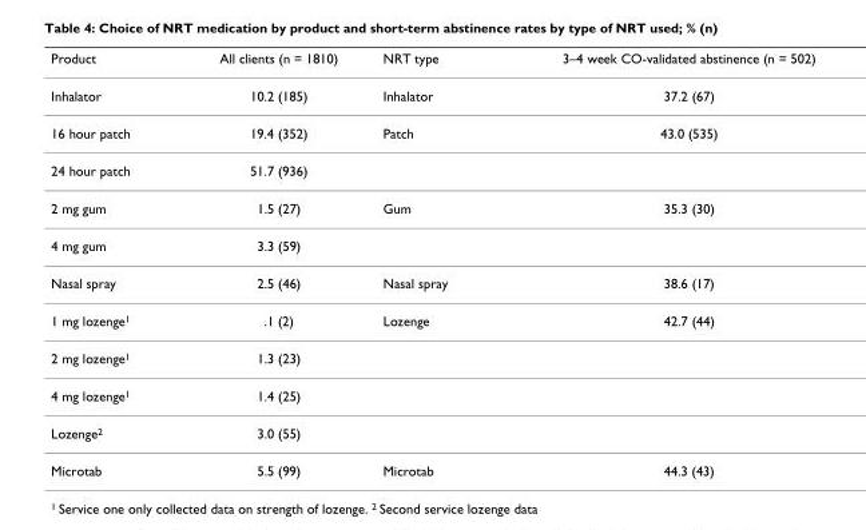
<table><thead><tr><td>Product</td><td>All clients (n = 1810)</td><td>NRT type</td><td>3–4 week CO-validated abstinence (n = 502)</td></tr></thead><tbody><tr><td>Inhalator</td><td>10.2 (185)</td><td>Inhalator</td><td>37.2 (67)</td></tr><tr><td>16 hour patch</td><td>19.4 (352)</td><td>Patch</td><td>43.0 (535)</td></tr><tr><td>24 hour patch</td><td>51.7 (936)</td><td></td><td></td></tr><tr><td>2 mg gum</td><td>1.5 (27)</td><td>Gum</td><td>35.3 (30)</td></tr><tr><td>4 mg gum</td><td>3.3 (59)</td><td></td><td></td></tr><tr><td>Nasal spray</td><td>2.5 (46)</td><td>Nasal spray</td><td>38.6 (17)</td></tr><tr><td>1 mg lozenge<sup>1</sup></td><td>.1 (2)</td><td>Lozenge</td><td>42.7 (44)</td></tr><tr><td>2 mg lozenge<sup>1</sup></td><td>1.3 (23)</td><td></td><td></td></tr><tr><td>4 mg lozenge<sup>1</sup></td><td>1.4 (25)</td><td></td><td></td></tr><tr><td>Lozenge<sup>2</sup></td><td>3.0 (55)</td><td></td><td></td></tr><tr><td>Microtab</td><td>5.5 (99)</td><td>Microtab</td><td>44.3 (43)</td></tr></tbody></table>